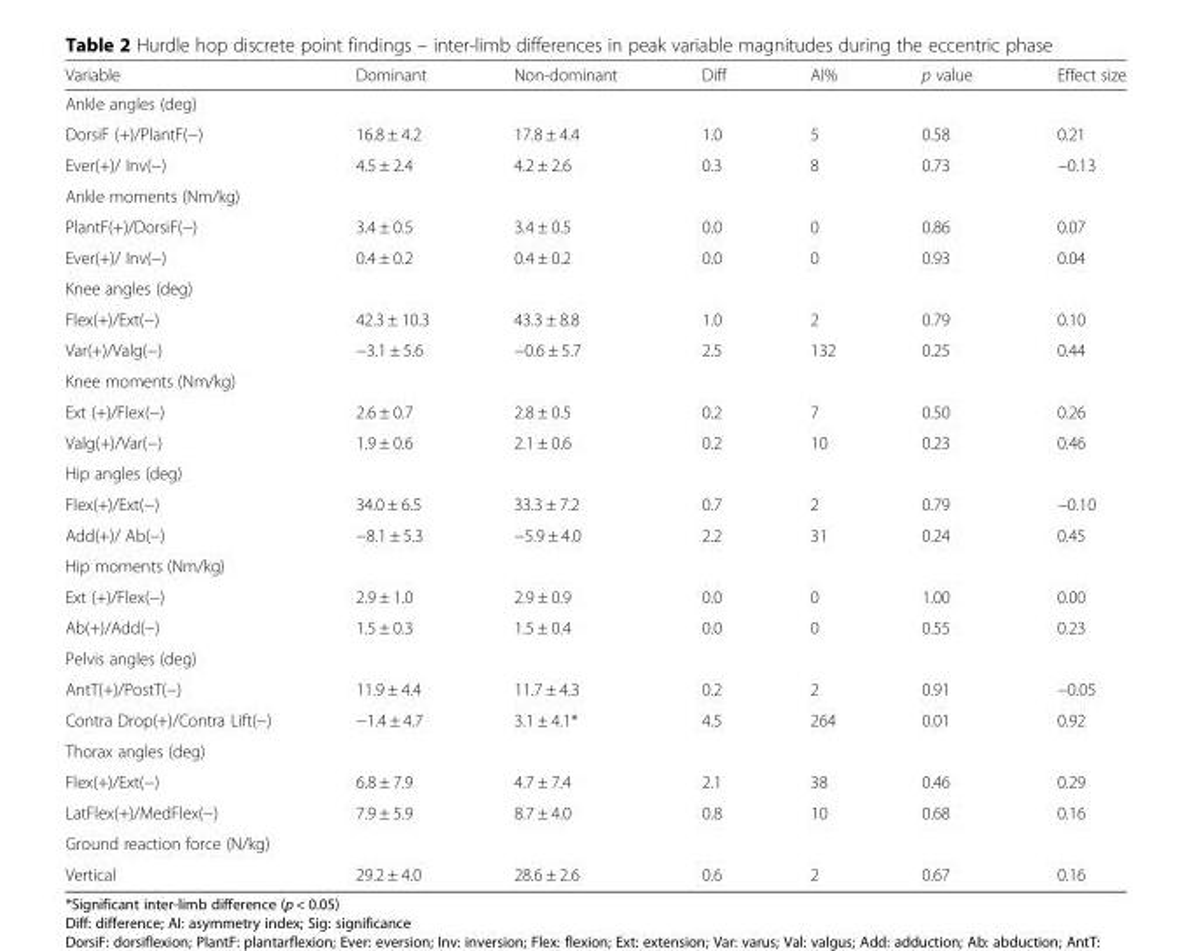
<table><thead><tr><td>Variable</td><td>Dominant</td><td>Non-dominant</td><td>Diff</td><td>AI%</td><td>p value</td><td>Effect size</td></tr></thead><tbody><tr><td colspan="7">Ankle angles (deg)</td></tr><tr><td>DorsiF (+)/PlantF(−)</td><td>16.8 ± 4.2</td><td>17.8 ± 4.4</td><td>1.0</td><td>5</td><td>0.58</td><td>0.21</td></tr><tr><td>Ever(+)/ Inv(−)</td><td>4.5 ± 2.4</td><td>4.2 ± 2.6</td><td>0.3</td><td>8</td><td>0.73</td><td>−0.13</td></tr><tr><td colspan="7">Ankle moments (Nm/kg)</td></tr><tr><td>PlantF(+)/DorsiF(−)</td><td>3.4 ± 0.5</td><td>3.4 ± 0.5</td><td>0.0</td><td>0</td><td>0.86</td><td>0.07</td></tr><tr><td>Ever(+)/ Inv(−)</td><td>0.4 ± 0.2</td><td>0.4 ± 0.2</td><td>0.0</td><td>0</td><td>0.93</td><td>0.04</td></tr><tr><td colspan="7">Knee angles (deg)</td></tr><tr><td>Flex(+)/Ext(−)</td><td>42.3 ± 10.3</td><td>43.3 ± 8.8</td><td>1.0</td><td>2</td><td>0.79</td><td>0.10</td></tr><tr><td>Var(+)/Valg(−)</td><td>−3.1 ± 5.6</td><td>−0.6 ± 5.7</td><td>2.5</td><td>132</td><td>0.25</td><td>0.44</td></tr><tr><td colspan="7">Knee moments (Nm/kg)</td></tr><tr><td>Ext (+)/Flex(−)</td><td>2.6 ± 0.7</td><td>2.8 ± 0.5</td><td>0.2</td><td>7</td><td>0.50</td><td>0.26</td></tr><tr><td>Valg(+)/Var(−)</td><td>1.9 ± 0.6</td><td>2.1 ± 0.6</td><td>0.2</td><td>10</td><td>0.23</td><td>0.46</td></tr><tr><td colspan="7">Hip angles (deg)</td></tr><tr><td>Flex(+)/Ext(−)</td><td>34.0 ± 6.5</td><td>33.3 ± 7.2</td><td>0.7</td><td>2</td><td>0.79</td><td>−0.10</td></tr><tr><td>Add(+)/ Ab(−)</td><td>−8.1 ± 5.3</td><td>−5.9 ± 4.0</td><td>2.2</td><td>31</td><td>0.24</td><td>0.45</td></tr><tr><td colspan="7">Hip moments (Nm/kg)</td></tr><tr><td>Ext (+)/Flex(−)</td><td>2.9 ± 1.0</td><td>2.9 ± 0.9</td><td>0.0</td><td>0</td><td>1.00</td><td>0.00</td></tr><tr><td>Ab(+)/Add(−)</td><td>1.5 ± 0.3</td><td>1.5 ± 0.4</td><td>0.0</td><td>0</td><td>0.55</td><td>0.23</td></tr><tr><td colspan="7">Pelvis angles (deg)</td></tr><tr><td>AntT(+)/PostT(−)</td><td>11.9 ± 4.4</td><td>11.7 ± 4.3</td><td>0.2</td><td>2</td><td>0.91</td><td>−0.05</td></tr><tr><td>Contra Drop(+)/Contra Lift(−)</td><td>−1.4 ± 4.7</td><td>3.1 ± 4.1*</td><td>4.5</td><td>264</td><td>0.01</td><td>0.92</td></tr><tr><td colspan="7">Thorax angles (deg)</td></tr><tr><td>Flex(+)/Ext(−)</td><td>6.8 ± 7.9</td><td>4.7 ± 7.4</td><td>2.1</td><td>38</td><td>0.46</td><td>0.29</td></tr><tr><td>LatFlex(+)/MedFlex(−)</td><td>7.9 ± 5.9</td><td>8.7 ± 4.0</td><td>0.8</td><td>10</td><td>0.68</td><td>0.16</td></tr><tr><td colspan="7">Ground reaction force (N/kg)</td></tr><tr><td>Vertical</td><td>29.2 ± 4.0</td><td>28.6 ± 2.6</td><td>0.6</td><td>2</td><td>0.67</td><td>0.16</td></tr></tbody></table>